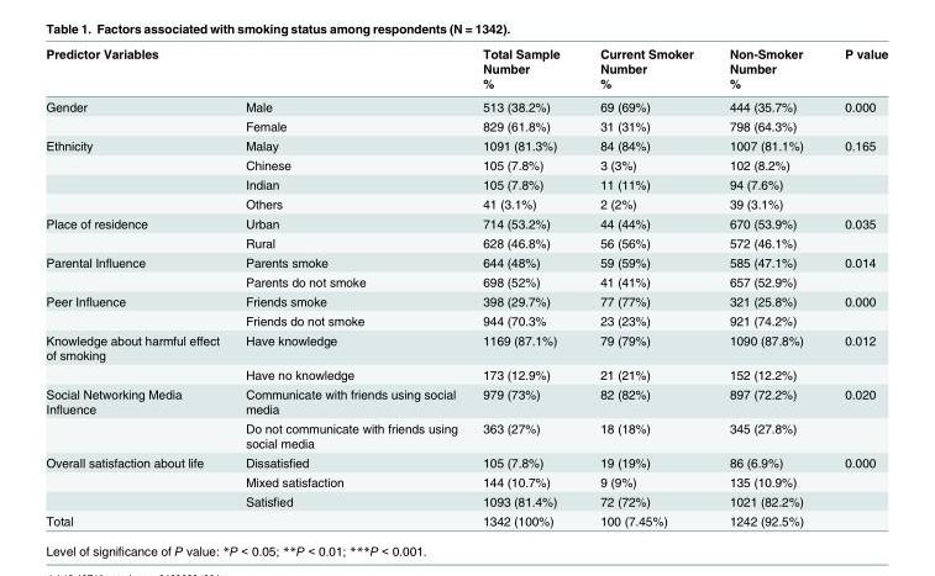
<table><thead><tr><td rowspan="2">Predictor Variables</td><td rowspan="2"></td><td rowspan="2">Total Sample Number %</td><td rowspan="2">Current Smoker Number %</td><td rowspan="2">Non-Smoker Number %</td><td rowspan="2">P value</td></tr><tr></tr></thead><tbody><tr><td rowspan="2">Gender</td><td>Male</td><td>513 (38.2%)</td><td>69 (69%)</td><td>444 (35.7%)</td><td>0.000</td></tr><tr><td>Female</td><td>829 (61.8%)</td><td>31 (31%)</td><td>798 (64.3%)</td><td></td></tr><tr><td rowspan="4">Ethnicity</td><td>Malay</td><td>1091 (81.3%)</td><td>84 (84%)</td><td>1007 (81.1%)</td><td>0.165</td></tr><tr><td>Chinese</td><td>105 (7.8%)</td><td>3 (3%)</td><td>102 (8.2%)</td><td></td></tr><tr><td>Indian</td><td>105 (7.8%)</td><td>11 (11%)</td><td>94 (7.6%)</td><td></td></tr><tr><td>Others</td><td>41 (3.1%)</td><td>2 (2%)</td><td>39 (3.1%)</td><td></td></tr><tr><td rowspan="2">Place of residence</td><td>Urban</td><td>714 (53.2%)</td><td>44 (44%)</td><td>670 (53.9%)</td><td>0.035</td></tr><tr><td>Rural</td><td>628 (46.8%)</td><td>56 (56%)</td><td>572 (46.1%)</td><td></td></tr><tr><td rowspan="2">Parental Influence</td><td>Parents smoke</td><td>644 (48%)</td><td>59 (59%)</td><td>585 (47.1%)</td><td>0.014</td></tr><tr><td>Parents do not smoke</td><td>698 (52%)</td><td>41 (41%)</td><td>657 (52.9%)</td><td></td></tr><tr><td rowspan="2">Peer Influence</td><td>Friends smoke</td><td>398 (29.7%)</td><td>77 (77%)</td><td>321 (25.8%)</td><td>0.000</td></tr><tr><td>Friends do not smoke</td><td>944 (70.3%</td><td>23 (23%)</td><td>921 (74.2%)</td><td></td></tr><tr><td rowspan="2">Knowledge about harmful effect of smoking</td><td>Have knowledge</td><td>1169 (87.1%)</td><td>79 (79%)</td><td>1090 (87.8%)</td><td>0.012</td></tr><tr><td>Have no knowledge</td><td>173 (12.9%)</td><td>21 (21%)</td><td>152 (12.2%)</td><td></td></tr><tr><td rowspan="2">Social Networking Media Influence</td><td>Communicate with friends using social media</td><td>979 (73%)</td><td>82 (82%)</td><td>897 (72.2%)</td><td>0.020</td></tr><tr><td>Do not communicate with friends using social media</td><td>363 (27%)</td><td>18 (18%)</td><td>345 (27.8%)</td><td></td></tr><tr><td rowspan="3">Overall satisfaction about life</td><td>Dissatisfied</td><td>105 (7.8%)</td><td>19 (19%)</td><td>86 (6.9%)</td><td>0.000</td></tr><tr><td>Mixed satisfaction</td><td>144 (10.7%)</td><td>9 (9%)</td><td>135 (10.9%)</td><td></td></tr><tr><td>Satisfied</td><td>1093 (81.4%)</td><td>72 (72%)</td><td>1021 (82.2%)</td><td></td></tr><tr><td>Total</td><td></td><td>1342 (100%)</td><td>100 (7.45%)</td><td>1242 (92.5%)</td><td></td></tr></tbody></table>